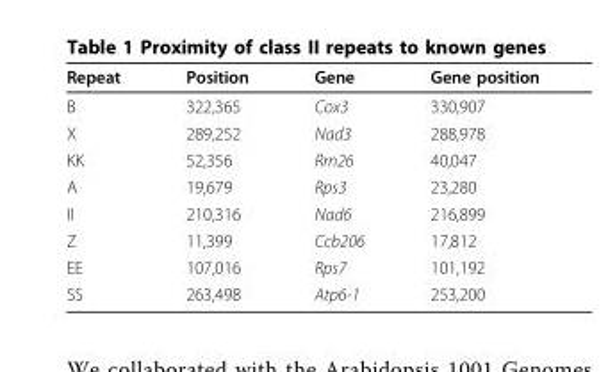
<table><thead><tr><td>Repeat</td><td>Position</td><td>Gene</td><td>Gene position</td></tr></thead><tbody><tr><td>B</td><td>322,365</td><td>Cox3</td><td>330,907</td></tr><tr><td>X</td><td>289,252</td><td>Nad3</td><td>288,978</td></tr><tr><td>KK</td><td>52,356</td><td>Rrn26</td><td>40,047</td></tr><tr><td>A</td><td>19,679</td><td>Rps3</td><td>23,280</td></tr><tr><td>II</td><td>210,316</td><td>Nad6</td><td>216,899</td></tr><tr><td>Z</td><td>11,399</td><td>Ccb206</td><td>17,812</td></tr><tr><td>EE</td><td>107,016</td><td>Rps7</td><td>101,192</td></tr><tr><td>SS</td><td>263,498</td><td>Atp6-1</td><td>253,200</td></tr></tbody></table>